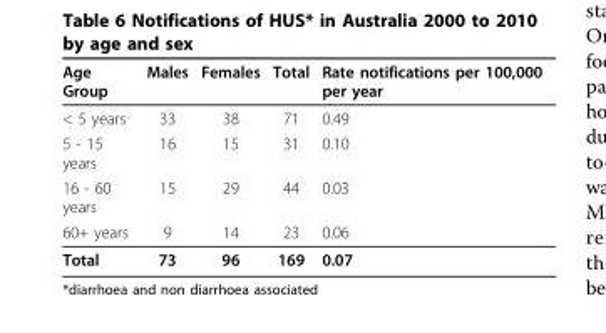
<table><thead><tr><td>Age Group</td><td>Males</td><td>Females</td><td>Total</td><td>Rate notifications per 100,000 per year</td></tr></thead><tbody><tr><td>&lt; 5 years</td><td>33</td><td>38</td><td>71</td><td>0.49</td></tr><tr><td>5 - 15 years</td><td>16</td><td>15</td><td>31</td><td>0.10</td></tr><tr><td>16 - 60 years</td><td>15</td><td>29</td><td>44</td><td>0.03</td></tr><tr><td>60+ years</td><td>9</td><td>14</td><td>23</td><td>0.06</td></tr><tr><td>Total</td><td>73</td><td>96</td><td>169</td><td>0.07</td></tr></tbody></table>